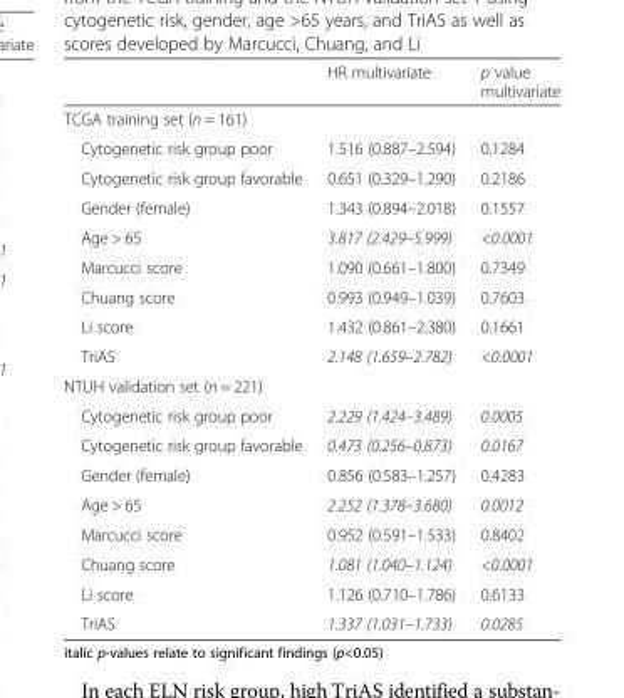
<table><thead><tr><td></td><td>HR multivariate</td><td>p value multivariate</td></tr></thead><tbody><tr><td colspan="3">TCGA training set (n = 161)</td></tr><tr><td>Cytogenetic risk group poor</td><td>1.516 (0.887–2.594)</td><td>0.1284</td></tr><tr><td>Cytogenetic risk group favorable</td><td>0.651 (0.329–1.290)</td><td>0.2186</td></tr><tr><td>Gender (female)</td><td>1.343 (0.894–2.018)</td><td>0.1557</td></tr><tr><td>Age &gt; 65</td><td>3.817 (2.429–5.999)</td><td>&lt;0.0001</td></tr><tr><td>Marcucci score</td><td>1.090 (0.661–1.800)</td><td>0.7349</td></tr><tr><td>Chuang score</td><td>0.993 (0.949–1.039)</td><td>0.7603</td></tr><tr><td>Li score</td><td>1.432 (0.861–2.380)</td><td>0.1661</td></tr><tr><td>TriAS</td><td>2.148 (1.659–2.782)</td><td>&lt;0.0001</td></tr><tr><td colspan="3">NTUH validation set (n = 221)</td></tr><tr><td>Cytogenetic risk group poor</td><td>2.229 (1.424–3.489)</td><td>0.0005</td></tr><tr><td>Cytogenetic risk group favorable</td><td>0.473 (0.256–0.873)</td><td>0.0167</td></tr><tr><td>Gender (female)</td><td>0.856 (0.583–1.257)</td><td>0.4283</td></tr><tr><td>Age &gt; 65</td><td>2.252 (1.378–3.680)</td><td>0.0012</td></tr><tr><td>Marcucci score</td><td>0.952 (0.591–1.533)</td><td>0.8402</td></tr><tr><td>Chuang score</td><td>1.081 (1.040–1.124)</td><td>&lt;0.0001</td></tr><tr><td>Li score</td><td>1.126 (0.710–1.786)</td><td>0.6133</td></tr><tr><td>TriAS</td><td>1.337 (1.031–1.733)</td><td>0.0285</td></tr></tbody></table>